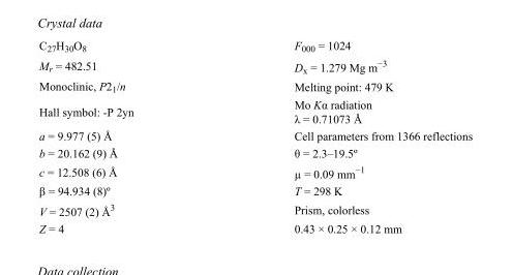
<table><tbody><tr><td>C<sub>27</sub>H<sub>30</sub>O<sub>8</sub></td><td>F000 = 1024</td></tr><tr><td>M<sub>r</sub> = 482.51</td><td>D<sub>x</sub> = 1.279 Mg m<sup>−3</sup></td></tr><tr><td>Monoclinic, P2<sub>1</sub>/n</td><td>Melting point: 479 K</td></tr><tr><td>Hall symbol: -P 2yn</td><td>Mo Kα radiation λ = 0.71073 Å</td></tr><tr><td>a = 9.977 (5) Å</td><td>Cell parameters from 1366 reflections</td></tr><tr><td>b = 20.162 (9) Å</td><td>θ = 2.3–19.5º</td></tr><tr><td>c = 12.508 (6) Å</td><td>µ = 0.09 mm<sup>−1</sup></td></tr><tr><td>β = 94.934 (8)º</td><td>T = 298 K</td></tr><tr><td>V = 2507 (2) Å<sup>3</sup></td><td>Prism, colorless</td></tr><tr><td>Z = 4</td><td>0.43 × 0.25 × 0.12 mm</td></tr></tbody></table>